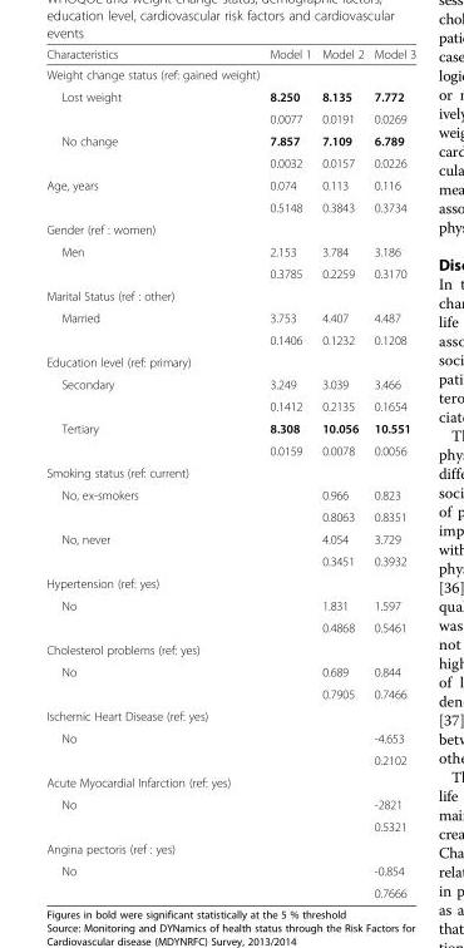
<table><thead><tr><td>Characteristics</td><td>Model 1</td><td>Model 2</td><td>Model 3</td></tr></thead><tbody><tr><td colspan="4">Weight change status (ref: gained weight)</td></tr><tr><td rowspan="2">Lost weight</td><td>8.250</td><td>8.135</td><td>7.772</td></tr><tr><td>0.0077</td><td>0.0191</td><td>0.0269</td></tr><tr><td rowspan="2">No change</td><td>7.857</td><td>7.109</td><td>6.789</td></tr><tr><td>0.0032</td><td>0.0157</td><td>0.0226</td></tr><tr><td rowspan="2">Age, years</td><td>0.074</td><td>0.113</td><td>0.116</td></tr><tr><td>0.5148</td><td>0.3843</td><td>0.3734</td></tr><tr><td colspan="4">Gender (ref : women)</td></tr><tr><td rowspan="2">Men</td><td>2.153</td><td>3.784</td><td>3.186</td></tr><tr><td>0.3785</td><td>0.2259</td><td>0.3170</td></tr><tr><td colspan="4">Marital Status (ref : other)</td></tr><tr><td rowspan="2">Married</td><td>3.753</td><td>4.407</td><td>4.487</td></tr><tr><td>0.1406</td><td>0.1232</td><td>0.1208</td></tr><tr><td colspan="4">Education level (ref: primary)</td></tr><tr><td rowspan="2">Secondary</td><td>3.249</td><td>3.039</td><td>3.466</td></tr><tr><td>0.1412</td><td>0.2135</td><td>0.1654</td></tr><tr><td rowspan="2">Tertiary</td><td>8.308</td><td>10.056</td><td>10.551</td></tr><tr><td>0.0159</td><td>0.0078</td><td>0.0056</td></tr><tr><td colspan="4">Smoking status (ref: current)</td></tr><tr><td rowspan="2">No, ex-smokers</td><td></td><td>0.966</td><td>0.823</td></tr><tr><td></td><td>0.8063</td><td>0.8351</td></tr><tr><td rowspan="2">No, never</td><td></td><td>4.054</td><td>3.729</td></tr><tr><td></td><td>0.3451</td><td>0.3932</td></tr><tr><td colspan="4">Hypertension (ref: yes)</td></tr><tr><td rowspan="2">No</td><td></td><td>1.831</td><td>1.597</td></tr><tr><td></td><td>0.4868</td><td>0.5461</td></tr><tr><td colspan="4">Cholesterol problems (ref: yes)</td></tr><tr><td rowspan="2">No</td><td></td><td>0.689</td><td>0.844</td></tr><tr><td></td><td>0.7905</td><td>0.7466</td></tr><tr><td colspan="4">Ischemic Heart Disease (ref: yes)</td></tr><tr><td rowspan="2">No</td><td></td><td></td><td>-4.653</td></tr><tr><td></td><td></td><td>0.2102</td></tr><tr><td colspan="4">Acute Myocardial Infarction (ref: yes)</td></tr><tr><td rowspan="2">No</td><td></td><td></td><td>-2821</td></tr><tr><td></td><td></td><td>0.5321</td></tr><tr><td colspan="4">Angina pectoris (ref : yes)</td></tr><tr><td rowspan="2">No</td><td></td><td></td><td>-0.854</td></tr><tr><td></td><td></td><td>0.7666</td></tr></tbody></table>